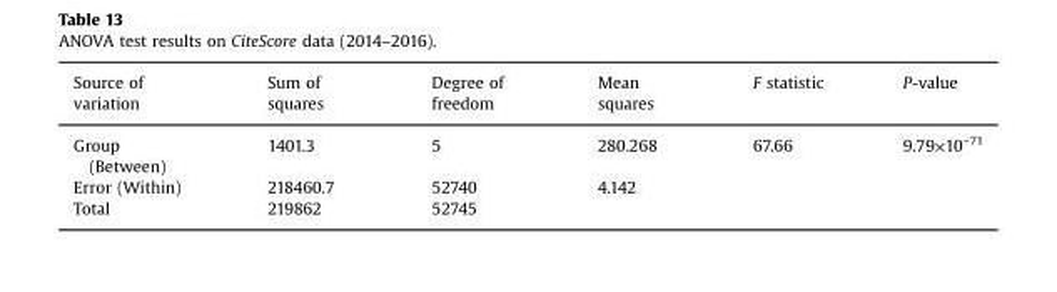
<table><thead><tr><td>Source of variation</td><td>Sum of squares</td><td>Degree of freedom</td><td>Mean squares</td><td>F statistic</td><td>P-value</td></tr></thead><tbody><tr><td>Group (Between)</td><td>1401.3</td><td>5</td><td>280.268</td><td>67.66</td><td>9.79×10<sup>–71</sup></td></tr><tr><td>Error (Within)</td><td>218460.7</td><td>52740</td><td>4.142</td><td></td><td></td></tr><tr><td>Total</td><td>219862</td><td>52745</td><td></td><td></td><td></td></tr></tbody></table>